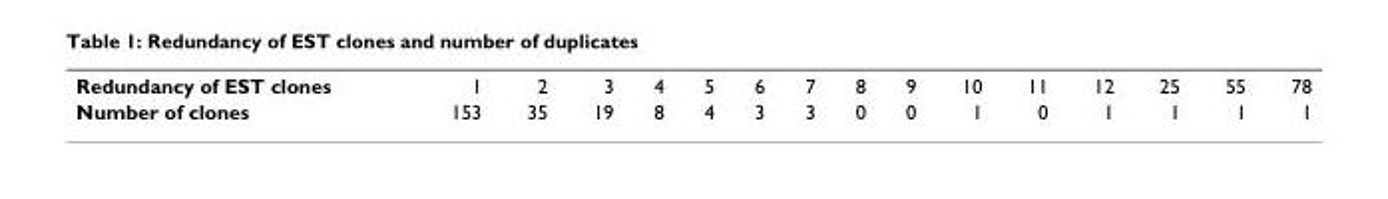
<table><tbody><tr><td>Redundancy of EST clones</td><td>1</td><td>2</td><td>3</td><td>4</td><td>5</td><td>6</td><td>7</td><td>8</td><td>9</td><td>10</td><td>11</td><td>12</td><td>25</td><td>55</td><td>78</td></tr><tr><td>Number of clones</td><td>153</td><td>35</td><td>19</td><td>8</td><td>4</td><td>3</td><td>3</td><td>0</td><td>0</td><td>1</td><td>0</td><td>1</td><td>1</td><td>1</td><td>1</td></tr></tbody></table>